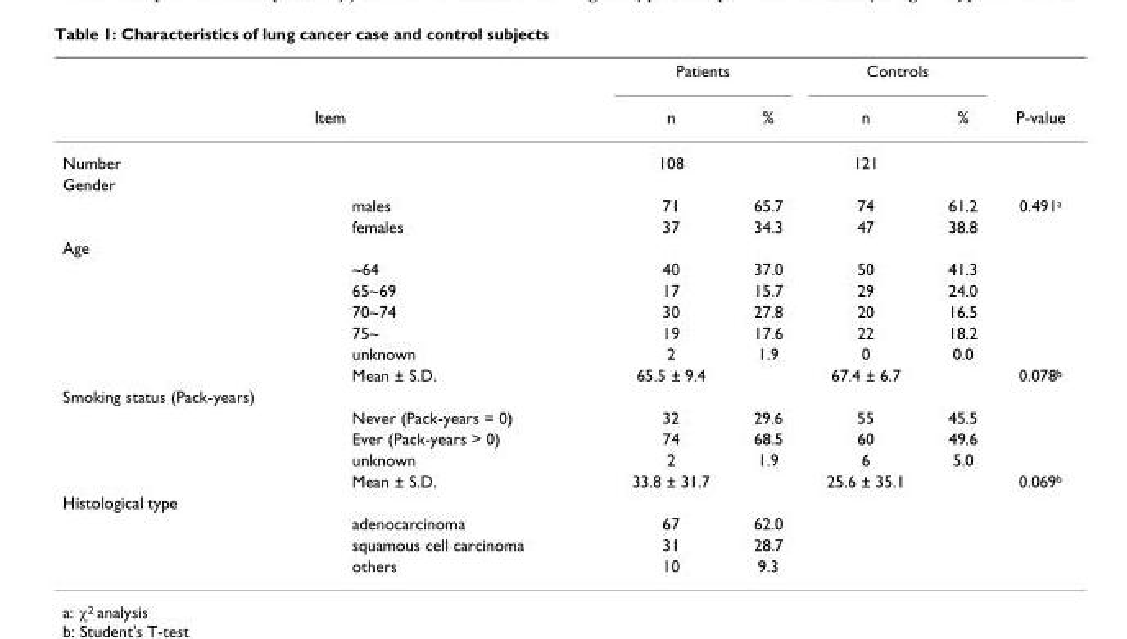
<table><thead><tr><td></td><td></td><td colspan="2">Patients</td><td colspan="2">Controls</td><td rowspan="2">P-value</td></tr><tr><td colspan="2">Item</td><td>n</td><td>%</td><td>n</td><td>%</td></tr></thead><tbody><tr><td>Number</td><td></td><td>108</td><td></td><td>121</td><td></td><td></td></tr><tr><td colspan="7">Gender</td></tr><tr><td></td><td>males</td><td>71</td><td>65.7</td><td>74</td><td>61.2</td><td>0.491<sup>a</sup></td></tr><tr><td></td><td>females</td><td>37</td><td>34.3</td><td>47</td><td>38.8</td><td></td></tr><tr><td colspan="7">Age</td></tr><tr><td></td><td>~64</td><td>40</td><td>37.0</td><td>50</td><td>41.3</td><td></td></tr><tr><td></td><td>65~69</td><td>17</td><td>15.7</td><td>29</td><td>24.0</td><td></td></tr><tr><td></td><td>70~74</td><td>30</td><td>27.8</td><td>20</td><td>16.5</td><td></td></tr><tr><td></td><td>75~</td><td>19</td><td>17.6</td><td>22</td><td>18.2</td><td></td></tr><tr><td></td><td>unknown</td><td>2</td><td>1.9</td><td>0</td><td>0.0</td><td></td></tr><tr><td></td><td>Mean ± S.D.</td><td>65.5 ± 9.4</td><td></td><td>67.4 ± 6.7</td><td></td><td>0.078<sup>b</sup></td></tr><tr><td colspan="7">Smoking status (Pack-years)</td></tr><tr><td></td><td>Never (Pack-years = 0)</td><td>32</td><td>29.6</td><td>55</td><td>45.5</td><td></td></tr><tr><td></td><td>Ever (Pack-years &gt; 0)</td><td>74</td><td>68.5</td><td>60</td><td>49.6</td><td></td></tr><tr><td></td><td>unknown</td><td>2</td><td>1.9</td><td>6</td><td>5.0</td><td></td></tr><tr><td></td><td>Mean ± S.D.</td><td>33.8 ± 31.7</td><td></td><td>25.6 ± 35.1</td><td></td><td>0.069<sup>b</sup></td></tr><tr><td colspan="7">Histological type</td></tr><tr><td></td><td>adenocarcinoma</td><td>67</td><td>62.0</td><td></td><td></td><td></td></tr><tr><td></td><td>squamous cell carcinoma</td><td>31</td><td>28.7</td><td></td><td></td><td></td></tr><tr><td></td><td>others</td><td>10</td><td>9.3</td><td></td><td></td><td></td></tr></tbody></table>